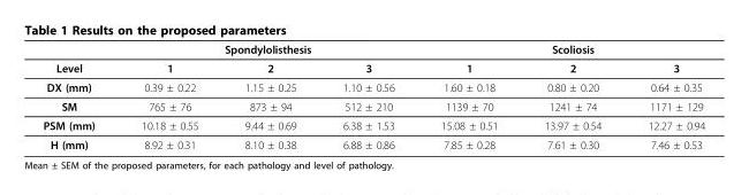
<table><thead><tr><td rowspan="2">Level</td><td colspan="3">Spondylolisthesis</td><td colspan="3">Scoliosis</td></tr><tr><td>1</td><td>2</td><td>3</td><td>1</td><td>2</td><td>3</td></tr></thead><tbody><tr><td>DX (mm)</td><td>0.39 ± 0.22</td><td>1.15 ± 0.25</td><td>1.10 ± 0.56</td><td>1.60 ± 0.18</td><td>0.80 ± 0.20</td><td>0.64 ± 0.35</td></tr><tr><td>SM</td><td>765 ± 76</td><td>873 ± 94</td><td>512 ± 210</td><td>1139 ± 70</td><td>1241 ± 74</td><td>1171 ± 129</td></tr><tr><td>PSM (mm)</td><td>10.18 ± 0.55</td><td>9.44 ± 0.69</td><td>6.38 ± 1.53</td><td>15.08 ± 0.51</td><td>13.97 ± 0.54</td><td>12.27 ± 0.94</td></tr><tr><td>H (mm)</td><td>8.92 ± 0.31</td><td>8.10 ± 0.38</td><td>6.88 ± 0.86</td><td>7.85 ± 0.28</td><td>7.61 ± 0.30</td><td>7.46 ± 0.53</td></tr></tbody></table>